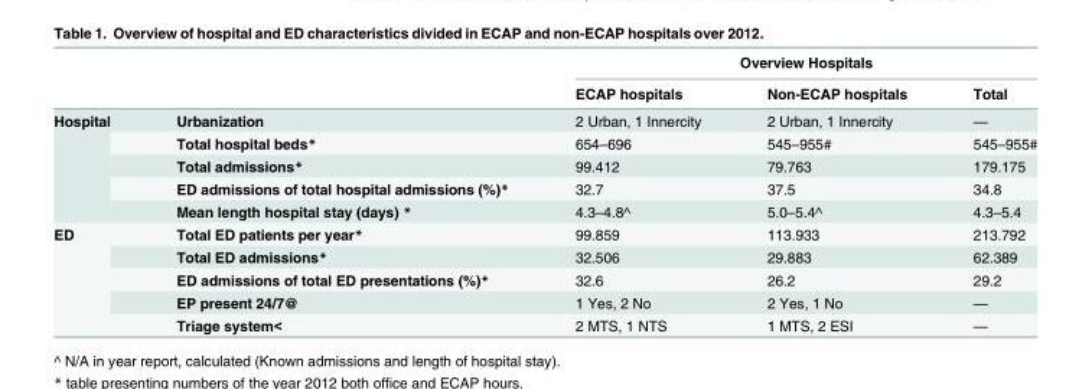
<table><thead><tr><td rowspan="2"></td><td rowspan="2"></td><td colspan="3">Overview Hospitals</td></tr><tr><td>ECAP hospitals</td><td>Non-ECAP hospitals</td><td>Total</td></tr></thead><tbody><tr><td rowspan="5">Hospital</td><td>Urbanization</td><td>2 Urban, 1 Innercity</td><td>2 Urban, 1 Innercity</td><td>—</td></tr><tr><td>Total hospital beds*</td><td>654–696</td><td>545–955#</td><td>545–955#</td></tr><tr><td>Total admissions*</td><td>99.412</td><td>79.763</td><td>179.175</td></tr><tr><td>ED admissions of total hospital admissions (%)*</td><td>32.7</td><td>37.5</td><td>34.8</td></tr><tr><td>Mean length hospital stay (days) *</td><td>4.3–4.8^</td><td>5.0–5.4^</td><td>4.3–5.4</td></tr><tr><td rowspan="5">ED</td><td>Total ED patients per year*</td><td>99.859</td><td>113.933</td><td>213.792</td></tr><tr><td>Total ED admissions*</td><td>32.506</td><td>29.883</td><td>62.389</td></tr><tr><td>ED admissions of total ED presentations (%)*</td><td>32.6</td><td>26.2</td><td>29.2</td></tr><tr><td>EP present 24/7@</td><td>1 Yes, 2 No</td><td>2 Yes, 1 No</td><td>—</td></tr><tr><td>Triage system&lt;</td><td>2 MTS, 1 NTS</td><td>1 MTS, 2 ESI</td><td>—</td></tr></tbody></table>